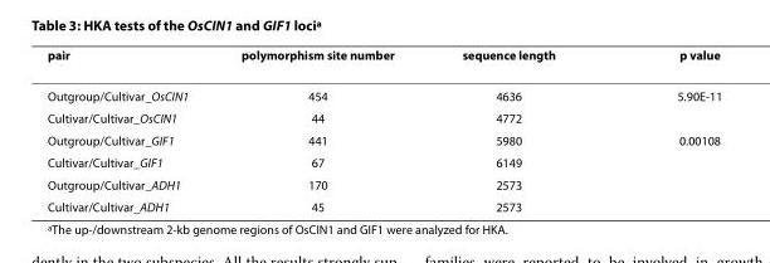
<table><thead><tr><td>pair</td><td>polymorphism site number</td><td>sequence length</td><td>p value</td></tr></thead><tbody><tr><td>Outgroup/Cultivar_OsCIN1</td><td>454</td><td>4636</td><td>5.90E-11</td></tr><tr><td>Cultivar/Cultivar_OsCIN1</td><td>44</td><td>4772</td><td></td></tr><tr><td>Outgroup/Cultivar_GIF1</td><td>441</td><td>5980</td><td>0.00108</td></tr><tr><td>Cultivar/Cultivar_GIF1</td><td>67</td><td>6149</td><td></td></tr><tr><td>Outgroup/Cultivar_ADH1</td><td>170</td><td>2573</td><td></td></tr><tr><td>Cultivar/Cultivar_ADH1</td><td>45</td><td>2573</td><td></td></tr></tbody></table>